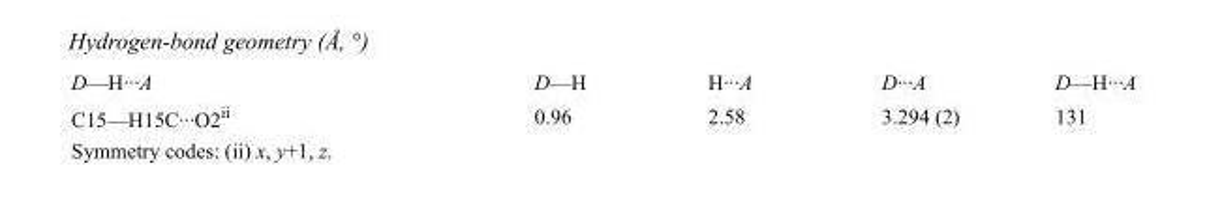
<table><tbody><tr><td>D—H···A</td><td>D—H</td><td>H···A</td><td>D···A</td><td>D—H···A</td></tr><tr><td>C15—H15C···O2<sup>ii</sup></td><td>0.96</td><td>2.58</td><td>3.294 (2)</td><td>131</td></tr></tbody></table>